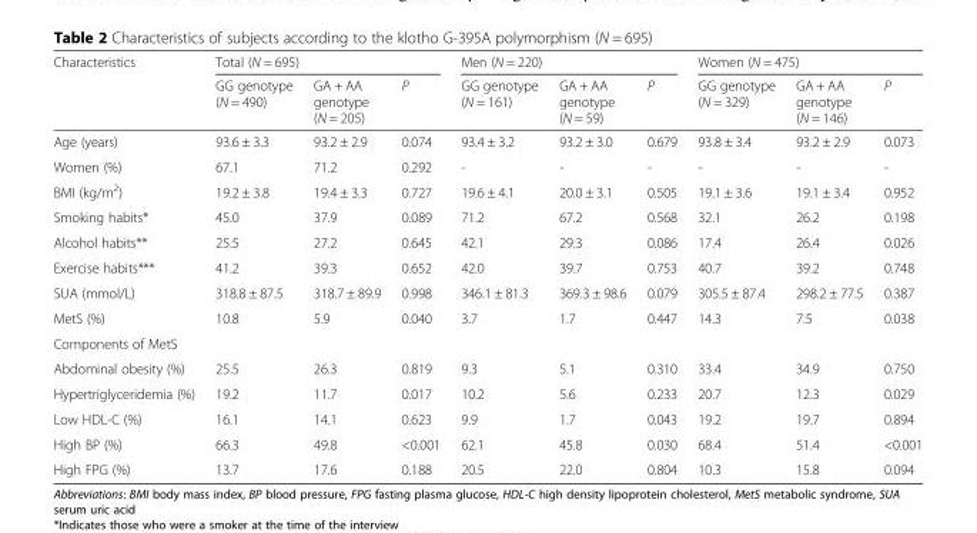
<table><thead><tr><td rowspan="2">Characteristics</td><td colspan="3">Total (N = 695)</td><td colspan="3">Men (N = 220)</td><td colspan="3">Women (N = 475)</td></tr><tr><td>GG genotype (N = 490)</td><td>GA + AA genotype (N = 205)</td><td>P</td><td>GG genotype (N = 161)</td><td>GA + AA genotype (N = 59)</td><td>P</td><td>GG genotype (N = 329)</td><td>GA + AA genotype (N = 146)</td><td>P</td></tr></thead><tbody><tr><td>Age (years)</td><td>93.6 ± 3.3</td><td>93.2 ± 2.9</td><td>0.074</td><td>93.4 ± 3.2</td><td>93.2 ± 3.0</td><td>0.679</td><td>93.8 ± 3.4</td><td>93.2 ± 2.9</td><td>0.073</td></tr><tr><td>Women (%)</td><td>67.1</td><td>71.2</td><td>0.292</td><td>-</td><td>-</td><td>-</td><td>-</td><td>-</td><td>-</td></tr><tr><td>BMI (kg/m<sup>2</sup>)</td><td>19.2 ± 3.8</td><td>19.4 ± 3.3</td><td>0.727</td><td>19.6 ± 4.1</td><td>20.0 ± 3.1</td><td>0.505</td><td>19.1 ± 3.6</td><td>19.1 ± 3.4</td><td>0.952</td></tr><tr><td>Smoking habits*</td><td>45.0</td><td>37.9</td><td>0.089</td><td>71.2</td><td>67.2</td><td>0.568</td><td>32.1</td><td>26.2</td><td>0.198</td></tr><tr><td>Alcohol habits**</td><td>25.5</td><td>27.2</td><td>0.645</td><td>42.1</td><td>29.3</td><td>0.086</td><td>17.4</td><td>26.4</td><td>0.026</td></tr><tr><td>Exercise habits***</td><td>41.2</td><td>39.3</td><td>0.652</td><td>42.0</td><td>39.7</td><td>0.753</td><td>40.7</td><td>39.2</td><td>0.748</td></tr><tr><td>SUA (mmol/L)</td><td>318.8 ± 87.5</td><td>318.7 ± 89.9</td><td>0.998</td><td>346.1 ± 81.3</td><td>369.3 ± 98.6</td><td>0.079</td><td>305.5 ± 87.4</td><td>298.2 ± 77.5</td><td>0.387</td></tr><tr><td>MetS (%)</td><td>10.8</td><td>5.9</td><td>0.040</td><td>3.7</td><td>1.7</td><td>0.447</td><td>14.3</td><td>7.5</td><td>0.038</td></tr><tr><td colspan="10">Components of MetS</td></tr><tr><td>Abdominal obesity (%)</td><td>25.5</td><td>26.3</td><td>0.819</td><td>9.3</td><td>5.1</td><td>0.310</td><td>33.4</td><td>34.9</td><td>0.750</td></tr><tr><td>Hypertriglyceridemia (%)</td><td>19.2</td><td>11.7</td><td>0.017</td><td>10.2</td><td>5.6</td><td>0.233</td><td>20.7</td><td>12.3</td><td>0.029</td></tr><tr><td>Low HDL-C (%)</td><td>16.1</td><td>14.1</td><td>0.623</td><td>9.9</td><td>1.7</td><td>0.043</td><td>19.2</td><td>19.7</td><td>0.894</td></tr><tr><td>High BP (%)</td><td>66.3</td><td>49.8</td><td>&lt;0.001</td><td>62.1</td><td>45.8</td><td>0.030</td><td>68.4</td><td>51.4</td><td>&lt;0.001</td></tr><tr><td>High FPG (%)</td><td>13.7</td><td>17.6</td><td>0.188</td><td>20.5</td><td>22.0</td><td>0.804</td><td>10.3</td><td>15.8</td><td>0.094</td></tr></tbody></table>